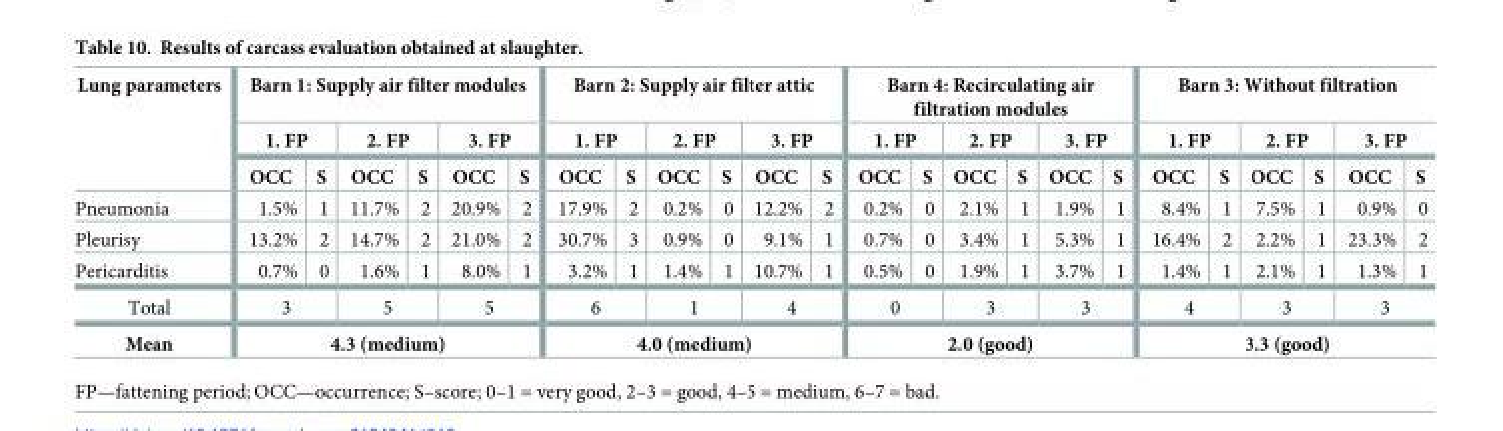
<table><thead><tr><td rowspan="3">Lung parameters</td><td colspan="6">Barn 1: Supply air filter modules</td><td colspan="6">Barn 2: Supply air filter attic</td><td colspan="6">Barn 4: Recirculating air filtration modules</td><td colspan="6">Barn 3: Without filtration</td></tr><tr><td colspan="2">1. FP</td><td colspan="2">2. FP</td><td colspan="2">3. FP</td><td colspan="2">1. FP</td><td colspan="2">2. FP</td><td colspan="2">3. FP</td><td colspan="2">1. FP</td><td colspan="2">2. FP</td><td colspan="2">3. FP</td><td colspan="2">1. FP</td><td colspan="2">2. FP</td><td colspan="2">3. FP</td></tr><tr><td>OCC</td><td>S</td><td>OCC</td><td>S</td><td>OCC</td><td>S</td><td>OCC</td><td>S</td><td>OCC</td><td>S</td><td>OCC</td><td>S</td><td>OCC</td><td>S</td><td>OCC</td><td>S</td><td>OCC</td><td>S</td><td>OCC</td><td>S</td><td>OCC</td><td>S</td><td>OCC</td><td>S</td></tr></thead><tbody><tr><td>Pneumonia</td><td>1.5%</td><td>1</td><td>11.7%</td><td>2</td><td>20.9%</td><td>2</td><td>17.9%</td><td>2</td><td>0.2%</td><td>0</td><td>12.2%</td><td>2</td><td>0.2%</td><td>0</td><td>2.1%</td><td>1</td><td>1.9%</td><td>1</td><td>8.4%</td><td>1</td><td>7.5%</td><td>1</td><td>0.9%</td><td>0</td></tr><tr><td>Pleurisy</td><td>13.2%</td><td>2</td><td>14.7%</td><td>2</td><td>21.0%</td><td>2</td><td>30.7%</td><td>3</td><td>0.9%</td><td>0</td><td>9.1%</td><td>1</td><td>0.7%</td><td>0</td><td>3.4%</td><td>1</td><td>5.3%</td><td>1</td><td>16.4%</td><td>2</td><td>2.2%</td><td>1</td><td>23.3%</td><td>2</td></tr><tr><td>Pericarditis</td><td>0.7%</td><td>0</td><td>1.6%</td><td>1</td><td>8.0%</td><td>1</td><td>3.2%</td><td>1</td><td>1.4%</td><td>1</td><td>10.7%</td><td>1</td><td>0.5%</td><td>0</td><td>1.9%</td><td>1</td><td>3.7%</td><td>1</td><td>1.4%</td><td>1</td><td>2.1%</td><td>1</td><td>1.3%</td><td>1</td></tr><tr><td>Total</td><td colspan="2">3</td><td colspan="2">5</td><td colspan="2">5</td><td colspan="2">6</td><td colspan="2">1</td><td colspan="2">4</td><td colspan="2">0</td><td colspan="2">3</td><td colspan="2">3</td><td colspan="2">4</td><td colspan="2">3</td><td colspan="2">3</td></tr><tr><td>Mean</td><td colspan="6">4.3 (medium)</td><td colspan="6">4.0 (medium)</td><td colspan="6">2.0 (good)</td><td colspan="6">3.3 (good)</td></tr></tbody></table>